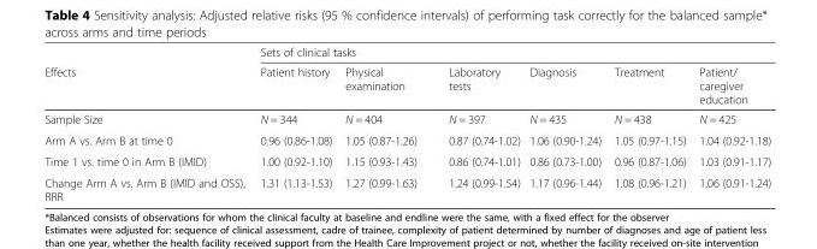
<table><thead><tr><td rowspan="2">Effects</td><td colspan="6">Sets of clinical tasks</td></tr><tr><td>Patient history</td><td>Physical examination</td><td>Laboratory tests</td><td>Diagnosis</td><td>Treatment</td><td>Patient/ caregiver education</td></tr></thead><tbody><tr><td>Sample Size</td><td>N = 344</td><td>N = 404</td><td>N = 397</td><td>N = 435</td><td>N = 438</td><td>N = 425</td></tr><tr><td>Arm A vs. Arm B at time 0</td><td>0.96 (0.86-1.08)</td><td>1.05 (0.87-1.26)</td><td>0.87 (0.74-1.02)</td><td>1.06 (0.90-1.24)</td><td>1.05 (0.97-1.15)</td><td>1.04 (0.92-1.18)</td></tr><tr><td>Time 1 vs. time 0 in Arm B (IMID)</td><td>1.00 (0.92-1.10)</td><td>1.15 (0.93-1.43)</td><td>0.86 (0.74-1.01)</td><td>0.86 (0.73-1.00)</td><td>0.96 (0.87-1.06)</td><td>1.03 (0.91-1.17)</td></tr><tr><td>Change Arm A vs. Arm B (IMID and OSS), RRR</td><td>1.31 (1.13-1.53)</td><td>1.27 (0.99-1.63)</td><td>1.24 (0.99-1.54)</td><td>1.17 (0.96-1.44)</td><td>1.08 (0.96-1.21)</td><td>1.06 (0.91-1.24)</td></tr></tbody></table>